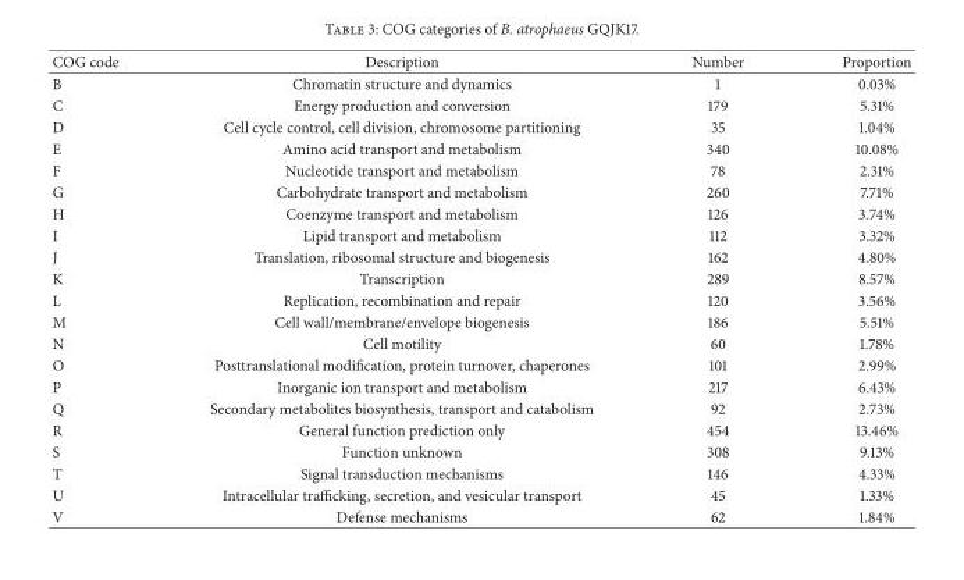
<table><thead><tr><td>COG code</td><td>Description</td><td>Number</td><td>Proportion</td></tr></thead><tbody><tr><td>B</td><td>Chromatin structure and dynamics</td><td>1</td><td>0.03%</td></tr><tr><td>C</td><td>Energy production and conversion</td><td>179</td><td>5.31%</td></tr><tr><td>D</td><td>Cell cycle control, cell division, chromosome partitioning</td><td>35</td><td>1.04%</td></tr><tr><td>E</td><td>Amino acid transport and metabolism</td><td>340</td><td>10.08%</td></tr><tr><td>F</td><td>Nucleotide transport and metabolism</td><td>78</td><td>2.31%</td></tr><tr><td>G</td><td>Carbohydrate transport and metabolism</td><td>260</td><td>7.71%</td></tr><tr><td>H</td><td>Coenzyme transport and metabolism</td><td>126</td><td>3.74%</td></tr><tr><td>I</td><td>Lipid transport and metabolism</td><td>112</td><td>3.32%</td></tr><tr><td>J</td><td>Translation, ribosomal structure and biogenesis</td><td>162</td><td>4.80%</td></tr><tr><td>K</td><td>Transcription</td><td>289</td><td>8.57%</td></tr><tr><td>L</td><td>Replication, recombination and repair</td><td>120</td><td>3.56%</td></tr><tr><td>M</td><td>Cell wall/membrane/envelope biogenesis</td><td>186</td><td>5.51%</td></tr><tr><td>N</td><td>Cell motility</td><td>60</td><td>1.78%</td></tr><tr><td>O</td><td>Posttranslational modification, protein turnover, chaperones</td><td>101</td><td>2.99%</td></tr><tr><td>P</td><td>Inorganic ion transport and metabolism</td><td>217</td><td>6.43%</td></tr><tr><td>Q</td><td>Secondary metabolites biosynthesis, transport and catabolism</td><td>92</td><td>2.73%</td></tr><tr><td>R</td><td>General function prediction only</td><td>454</td><td>13.46%</td></tr><tr><td>S</td><td>Function unknown</td><td>308</td><td>9.13%</td></tr><tr><td>T</td><td>Signal transduction mechanisms</td><td>146</td><td>4.33%</td></tr><tr><td>U</td><td>Intracellular trafficking, secretion, and vesicular transport</td><td>45</td><td>1.33%</td></tr><tr><td>V</td><td>Defense mechanisms</td><td>62</td><td>1.84%</td></tr></tbody></table>